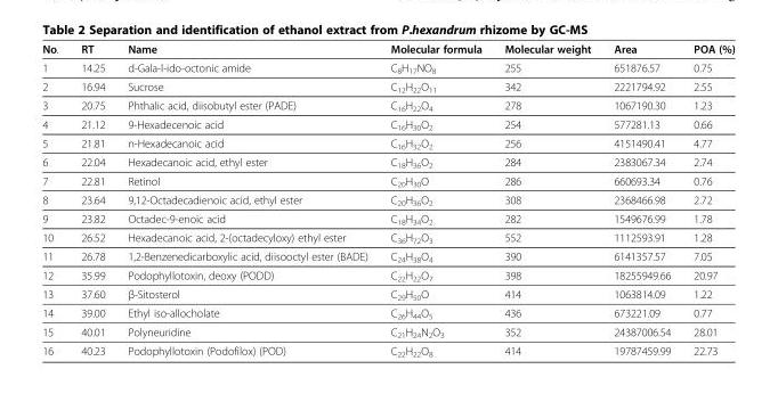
<table><thead><tr><td>No.</td><td>RT</td><td>Name</td><td>Molecular formula</td><td>Molecular weight</td><td>Area</td><td>POA (%)</td></tr></thead><tbody><tr><td>1</td><td>14.25</td><td>d-Gala-l-ido-octonic amide</td><td>C<sub>8</sub>H<sub>17</sub>NO<sub>8</sub></td><td>255</td><td>651876.57</td><td>0.75</td></tr><tr><td>2</td><td>16.94</td><td>Sucrose</td><td>C<sub>12</sub>H<sub>22</sub>O<sub>11</sub></td><td>342</td><td>2221794.92</td><td>2.55</td></tr><tr><td>3</td><td>20.75</td><td>Phthalic acid, diisobutyl ester (PADE)</td><td>C<sub>16</sub>H<sub>22</sub>O<sub>4</sub></td><td>278</td><td>1067190.30</td><td>1.23</td></tr><tr><td>4</td><td>21.12</td><td>9-Hexadecenoic acid</td><td>C<sub>16</sub>H<sub>30</sub>O<sub>2</sub></td><td>254</td><td>577281.13</td><td>0.66</td></tr><tr><td>5</td><td>21.81</td><td>n-Hexadecanoic acid</td><td>C<sub>16</sub>H<sub>32</sub>O<sub>2</sub></td><td>256</td><td>4151490.41</td><td>4.77</td></tr><tr><td>6</td><td>22.04</td><td>Hexadecanoic acid, ethyl ester</td><td>C<sub>18</sub>H<sub>36</sub>O<sub>2</sub></td><td>284</td><td>2383067.34</td><td>2.74</td></tr><tr><td>7</td><td>22.81</td><td>Retinol</td><td>C<sub>20</sub>H<sub>30</sub>O</td><td>286</td><td>660693.34</td><td>0.76</td></tr><tr><td>8</td><td>23.64</td><td>9,12-Octadecadienoic acid, ethyl ester</td><td>C<sub>20</sub>H<sub>36</sub>O<sub>2</sub></td><td>308</td><td>2368466.98</td><td>2.72</td></tr><tr><td>9</td><td>23.82</td><td>Octadec-9-enoic acid</td><td>C<sub>18</sub>H<sub>34</sub>O<sub>2</sub></td><td>282</td><td>1549676.99</td><td>1.78</td></tr><tr><td>10</td><td>26.52</td><td>Hexadecanoic acid, 2-(octadecyloxy) ethyl ester</td><td>C<sub>36</sub>H<sub>72</sub>O<sub>3</sub></td><td>552</td><td>1112593.91</td><td>1.28</td></tr><tr><td>11</td><td>26.78</td><td>1,2-Benzenedicarboxylic acid, diisooctyl ester (BADE)</td><td>C<sub>24</sub>H<sub>38</sub>O<sub>4</sub></td><td>390</td><td>6141357.57</td><td>7.05</td></tr><tr><td>12</td><td>35.99</td><td>Podophyllotoxin, deoxy (PODD)</td><td>C<sub>22</sub>H<sub>22</sub>O<sub>7</sub></td><td>398</td><td>18255949.66</td><td>20.97</td></tr><tr><td>13</td><td>37.60</td><td>β-Sitosterol</td><td>C<sub>29</sub>H<sub>50</sub>O</td><td>414</td><td>1063814.09</td><td>1.22</td></tr><tr><td>14</td><td>39.00</td><td>Ethyl iso-allocholate</td><td>C<sub>26</sub>H<sub>44</sub>O<sub>5</sub></td><td>436</td><td>673221.09</td><td>0.77</td></tr><tr><td>15</td><td>40.01</td><td>Polyneuridine</td><td>C<sub>21</sub>H<sub>24</sub>N<sub>2</sub>O<sub>3</sub></td><td>352</td><td>24387006.54</td><td>28.01</td></tr><tr><td>16</td><td>40.23</td><td>Podophyllotoxin (Podofilox) (POD)</td><td>C<sub>22</sub>H<sub>22</sub>O<sub>8</sub></td><td>414</td><td>19787459.99</td><td>22.73</td></tr></tbody></table>